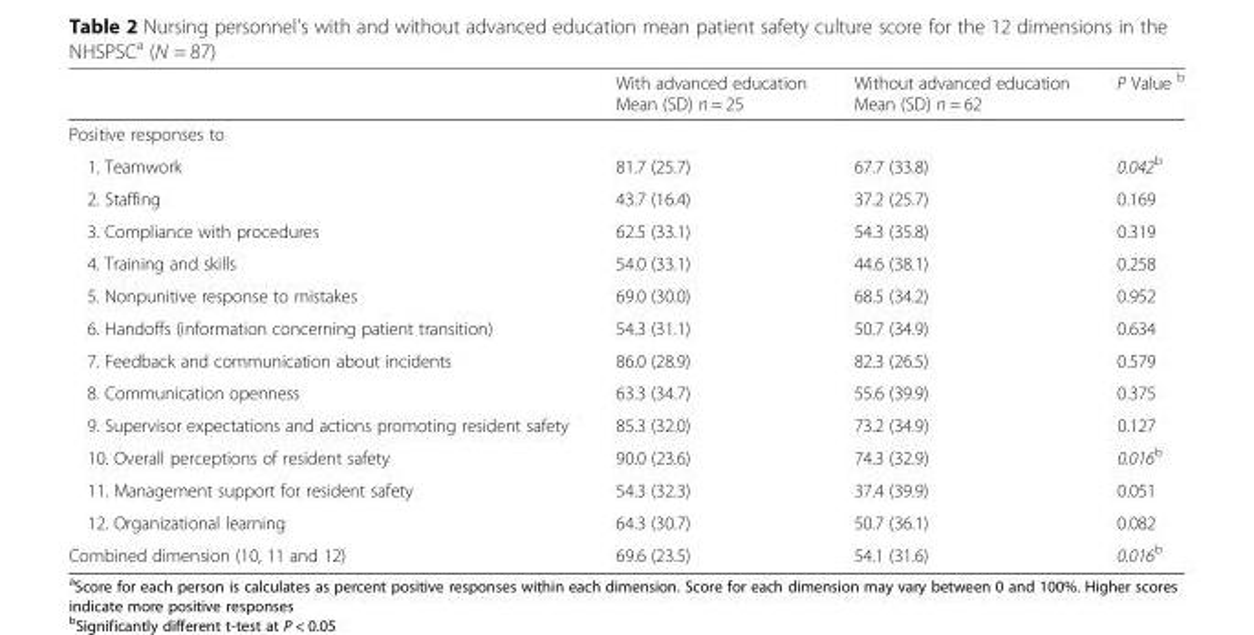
<table><thead><tr><td></td><td>With advanced education Mean (SD) n = 25</td><td>Without advanced education Mean (SD) n = 62</td><td>P Value <sup>b</sup></td></tr></thead><tbody><tr><td colspan="4">Positive responses to</td></tr><tr><td>1. Teamwork</td><td>81.7 (25.7)</td><td>67.7 (33.8)</td><td>0.042<sup>b</sup></td></tr><tr><td>2. Staffing</td><td>43.7 (16.4)</td><td>37.2 (25.7)</td><td>0.169</td></tr><tr><td>3. Compliance with procedures</td><td>62.5 (33.1)</td><td>54.3 (35.8)</td><td>0.319</td></tr><tr><td>4. Training and skills</td><td>54.0 (33.1)</td><td>44.6 (38.1)</td><td>0.258</td></tr><tr><td>5. Nonpunitive response to mistakes</td><td>69.0 (30.0)</td><td>68.5 (34.2)</td><td>0.952</td></tr><tr><td>6. Handoffs (information concerning patient transition)</td><td>54.3 (31.1)</td><td>50.7 (34.9)</td><td>0.634</td></tr><tr><td>7. Feedback and communication about incidents</td><td>86.0 (28.9)</td><td>82.3 (26.5)</td><td>0.579</td></tr><tr><td>8. Communication openness</td><td>63.3 (34.7)</td><td>55.6 (39.9)</td><td>0.375</td></tr><tr><td>9. Supervisor expectations and actions promoting resident safety</td><td>85.3 (32.0)</td><td>73.2 (34.9)</td><td>0.127</td></tr><tr><td>10. Overall perceptions of resident safety</td><td>90.0 (23.6)</td><td>74.3 (32.9)</td><td>0.016<sup>b</sup></td></tr><tr><td>11. Management support for resident safety</td><td>54.3 (32.3)</td><td>37.4 (39.9)</td><td>0.051</td></tr><tr><td>12. Organizational learning</td><td>64.3 (30.7)</td><td>50.7 (36.1)</td><td>0.082</td></tr><tr><td>Combined dimension (10, 11 and 12)</td><td>69.6 (23.5)</td><td>54.1 (31.6)</td><td>0.016<sup>b</sup></td></tr></tbody></table>